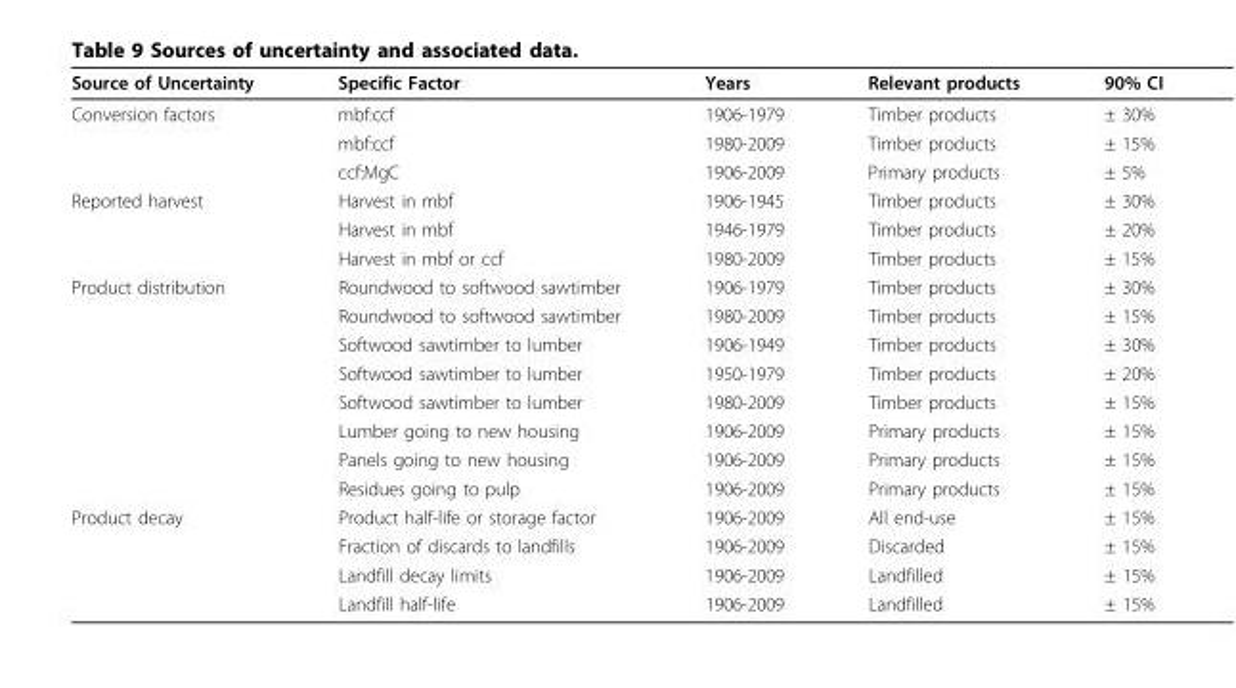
<table><thead><tr><td>Source of Uncertainty</td><td>Specific Factor</td><td>Years</td><td>Relevant products</td><td>90% CI</td></tr></thead><tbody><tr><td rowspan="3">Conversion factors</td><td>mbf:ccf</td><td>1906-1979</td><td>Timber products</td><td>± 30%</td></tr><tr><td>mbf:ccf</td><td>1980-2009</td><td>Timber products</td><td>± 15%</td></tr><tr><td>ccf:MgC</td><td>1906-2009</td><td>Primary products</td><td>± 5%</td></tr><tr><td rowspan="3">Reported harvest</td><td>Harvest in mbf</td><td>1906-1945</td><td>Timber products</td><td>± 30%</td></tr><tr><td>Harvest in mbf</td><td>1946-1979</td><td>Timber products</td><td>± 20%</td></tr><tr><td>Harvest in mbf or ccf</td><td>1980-2009</td><td>Timber products</td><td>± 15%</td></tr><tr><td rowspan="8">Product distribution</td><td>Roundwood to softwood sawtimber</td><td>1906-1979</td><td>Timber products</td><td>± 30%</td></tr><tr><td>Roundwood to softwood sawtimber</td><td>1980-2009</td><td>Timber products</td><td>± 15%</td></tr><tr><td>Softwood sawtimber to lumber</td><td>1906-1949</td><td>Timber products</td><td>± 30%</td></tr><tr><td>Softwood sawtimber to lumber</td><td>1950-1979</td><td>Timber products</td><td>± 20%</td></tr><tr><td>Softwood sawtimber to lumber</td><td>1980-2009</td><td>Timber products</td><td>± 15%</td></tr><tr><td>Lumber going to new housing</td><td>1906-2009</td><td>Primary products</td><td>± 15%</td></tr><tr><td>Panels going to new housing</td><td>1906-2009</td><td>Primary products</td><td>± 15%</td></tr><tr><td>Residues going to pulp</td><td>1906-2009</td><td>Primary products</td><td>± 15%</td></tr><tr><td rowspan="4">Product decay</td><td>Product half-life or storage factor</td><td>1906-2009</td><td>All end-use</td><td>± 15%</td></tr><tr><td>Fraction of discards to landfills</td><td>1906-2009</td><td>Discarded</td><td>± 15%</td></tr><tr><td>Landfill decay limits</td><td>1906-2009</td><td>Landfilled</td><td>± 15%</td></tr><tr><td>Landfill half-life</td><td>1906-2009</td><td>Landfilled</td><td>± 15%</td></tr></tbody></table>